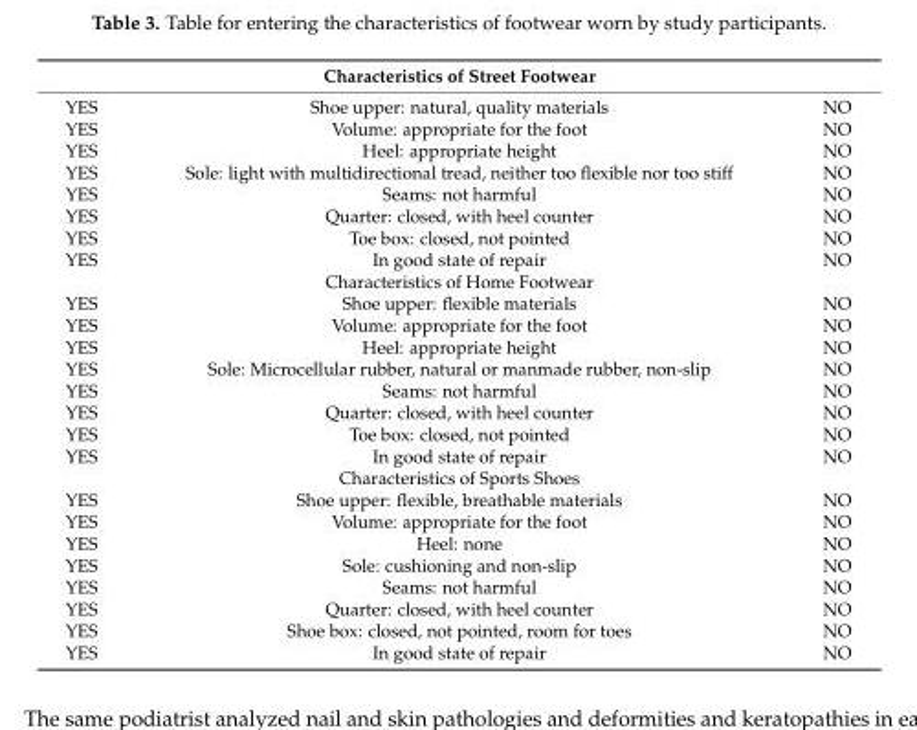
<table><thead><tr><td colspan="3">Characteristics of Street Footwear</td></tr><tr><td>YES</td><td>Shoe upper: natural, quality materials</td><td>NO</td></tr></thead><tbody><tr><td>YES</td><td>Volume: appropriate for the foot</td><td>NO</td></tr><tr><td>YES</td><td>Heel: appropriate height</td><td>NO</td></tr><tr><td>YES</td><td>Sole: light with multidirectional tread, neither too flexible nor too stiff</td><td>NO</td></tr><tr><td>YES</td><td>Seams: not harmful</td><td>NO</td></tr><tr><td>YES</td><td>Quarter: closed, with heel counter</td><td>NO</td></tr><tr><td>YES</td><td>Toe box: closed, not pointed</td><td>NO</td></tr><tr><td rowspan="2">YES</td><td>In good state of repair</td><td>NO</td></tr><tr><td>Characteristics of Home Footwear</td><td></td></tr><tr><td>YES</td><td>Shoe upper: flexible materials</td><td>NO</td></tr><tr><td>YES</td><td>Volume: appropriate for the foot</td><td>NO</td></tr><tr><td>YES</td><td>Heel: appropriate height</td><td>NO</td></tr><tr><td>YES</td><td>Sole: Microcellular rubber, natural or manmade rubber, non-slip</td><td>NO</td></tr><tr><td>YES</td><td>Seams: not harmful</td><td>NO</td></tr><tr><td>YES</td><td>Quarter: closed, with heel counter</td><td>NO</td></tr><tr><td>YES</td><td>Toe box: closed, not pointed</td><td>NO</td></tr><tr><td rowspan="2">YES</td><td>In good state of repair</td><td>NO</td></tr><tr><td>Characteristics of Sports Shoes</td><td></td></tr><tr><td>YES</td><td>Shoe upper: flexible, breathable materials</td><td>NO</td></tr><tr><td>YES</td><td>Volume: appropriate for the foot</td><td>NO</td></tr><tr><td>YES</td><td>Heel: none</td><td>NO</td></tr><tr><td>YES</td><td>Sole: cushioning and non-slip</td><td>NO</td></tr><tr><td>YES</td><td>Seams: not harmful</td><td>NO</td></tr><tr><td>YES</td><td>Quarter: closed, with heel counter</td><td>NO</td></tr><tr><td>YES</td><td>Shoe box: closed, not pointed, room for toes</td><td>NO</td></tr><tr><td>YES</td><td>In good state of repair</td><td>NO</td></tr></tbody></table>